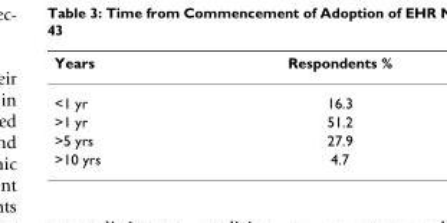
<table><thead><tr><td>Years</td><td>Respondents %</td></tr></thead><tbody><tr><td>&lt;1 yr</td><td>16.3</td></tr><tr><td>&gt;1 yr</td><td>51.2</td></tr><tr><td>&gt;5 yrs</td><td>27.9</td></tr><tr><td>&gt;10 yrs</td><td>4.7</td></tr></tbody></table>